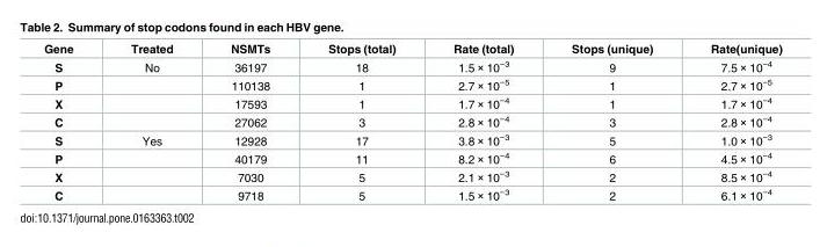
<table><thead><tr><td>Gene</td><td>Treated</td><td>NSMTs</td><td>Stops (total)</td><td>Rate (total)</td><td>Stops (unique)</td><td>Rate(unique)</td></tr></thead><tbody><tr><td>S</td><td>No</td><td>36197</td><td>18</td><td>1.5 × 10<sup>−3</sup></td><td>9</td><td>7.5 × 10<sup>−4</sup></td></tr><tr><td>P</td><td></td><td>110138</td><td>1</td><td>2.7 × 10<sup>−5</sup></td><td>1</td><td>2.7 × 10<sup>−5</sup></td></tr><tr><td>X</td><td></td><td>17593</td><td>1</td><td>1.7 × 10<sup>−4</sup></td><td>1</td><td>1.7 × 10<sup>−4</sup></td></tr><tr><td>C</td><td></td><td>27062</td><td>3</td><td>2.8 × 10<sup>−4</sup></td><td>3</td><td>2.8 × 10<sup>−4</sup></td></tr><tr><td>S</td><td>Yes</td><td>12928</td><td>17</td><td>3.8 × 10<sup>−3</sup></td><td>5</td><td>1.0 × 10<sup>−3</sup></td></tr><tr><td>P</td><td></td><td>40179</td><td>11</td><td>8.2 × 10<sup>−4</sup></td><td>6</td><td>4.5 × 10<sup>−4</sup></td></tr><tr><td>X</td><td></td><td>7030</td><td>5</td><td>2.1 × 10<sup>−3</sup></td><td>2</td><td>8.5 × 10<sup>−4</sup></td></tr><tr><td>C</td><td></td><td>9718</td><td>5</td><td>1.5 × 10<sup>−3</sup></td><td>2</td><td>6.1 × 10<sup>−4</sup></td></tr></tbody></table>